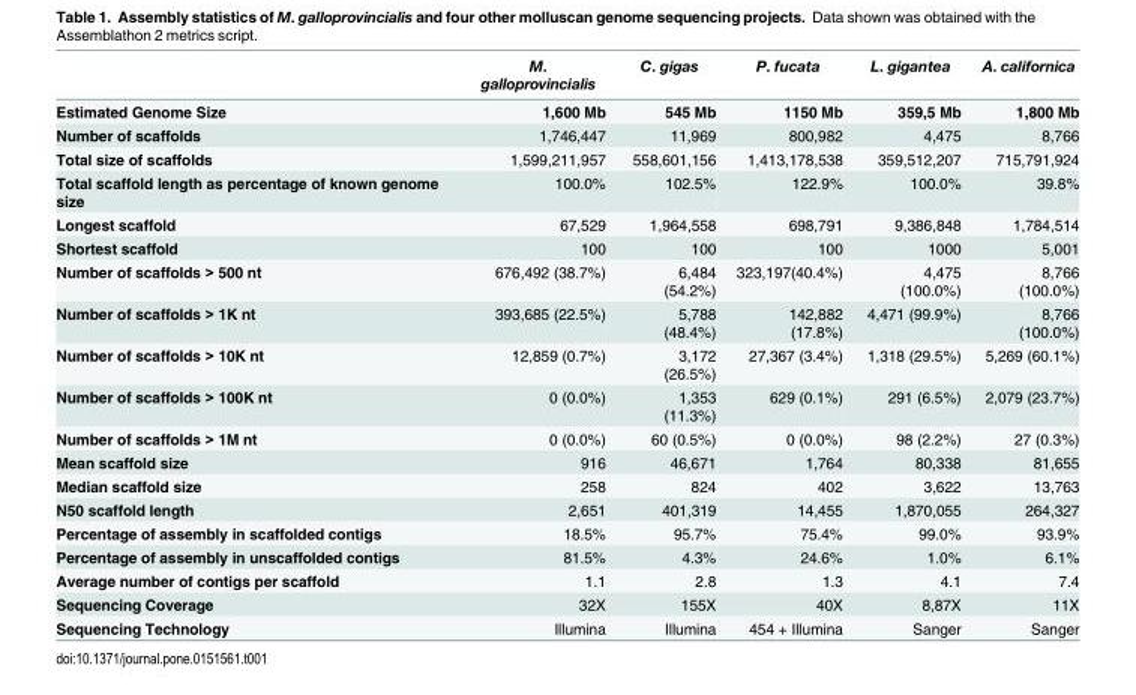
<table><thead><tr><td></td><td>M. galloprovincialis</td><td>C. gigas</td><td>P. fucata</td><td>L. gigantea</td><td>A. californica</td></tr></thead><tbody><tr><td>Estimated Genome Size</td><td>1,600 Mb</td><td>545 Mb</td><td>1150 Mb</td><td>359,5 Mb</td><td>1,800 Mb</td></tr><tr><td>Number of scaffolds</td><td>1,746,447</td><td>11,969</td><td>800,982</td><td>4,475</td><td>8,766</td></tr><tr><td>Total size of scaffolds</td><td>1,599,211,957</td><td>558,601,156</td><td>1,413,178,538</td><td>359,512,207</td><td>715,791,924</td></tr><tr><td>Total scaffold length as percentage of known genome size</td><td>100.0%</td><td>102.5%</td><td>122.9%</td><td>100.0%</td><td>39.8%</td></tr><tr><td>Longest scaffold</td><td>67,529</td><td>1,964,558</td><td>698,791</td><td>9,386,848</td><td>1,784,514</td></tr><tr><td>Shortest scaffold</td><td>100</td><td>100</td><td>100</td><td>1000</td><td>5,001</td></tr><tr><td>Number of scaffolds &gt; 500 nt</td><td>676,492 (38.7%)</td><td>6,484 (54.2%)</td><td>323,197(40.4%)</td><td>4,475 (100.0%)</td><td>8,766 (100.0%)</td></tr><tr><td>Number of scaffolds &gt; 1K nt</td><td>393,685 (22.5%)</td><td>5,788 (48.4%)</td><td>142,882 (17.8%)</td><td>4,471 (99.9%)</td><td>8,766 (100.0%)</td></tr><tr><td>Number of scaffolds &gt; 10K nt</td><td>12,859 (0.7%)</td><td>3,172 (26.5%)</td><td>27,367 (3.4%)</td><td>1,318 (29.5%)</td><td>5,269 (60.1%)</td></tr><tr><td>Number of scaffolds &gt; 100K nt</td><td>0 (0.0%)</td><td>1,353 (11.3%)</td><td>629 (0.1%)</td><td>291 (6.5%)</td><td>2,079 (23.7%)</td></tr><tr><td>Number of scaffolds &gt; 1M nt</td><td>0 (0.0%)</td><td>60 (0.5%)</td><td>0 (0.0%)</td><td>98 (2.2%)</td><td>27 (0.3%)</td></tr><tr><td>Mean scaffold size</td><td>916</td><td>46,671</td><td>1,764</td><td>80,338</td><td>81,655</td></tr><tr><td>Median scaffold size</td><td>258</td><td>824</td><td>402</td><td>3,622</td><td>13,763</td></tr><tr><td>N50 scaffold length</td><td>2,651</td><td>401,319</td><td>14,455</td><td>1,870,055</td><td>264,327</td></tr><tr><td>Percentage of assembly in scaffolded contigs</td><td>18.5%</td><td>95.7%</td><td>75.4%</td><td>99.0%</td><td>93.9%</td></tr><tr><td>Percentage of assembly in unscaffolded contigs</td><td>81.5%</td><td>4.3%</td><td>24.6%</td><td>1.0%</td><td>6.1%</td></tr><tr><td>Average number of contigs per scaffold</td><td>1.1</td><td>2.8</td><td>1.3</td><td>4.1</td><td>7.4</td></tr><tr><td>Sequencing Coverage</td><td>32X</td><td>155X</td><td>40X</td><td>8,87X</td><td>11X</td></tr><tr><td>Sequencing Technology</td><td>Illumina</td><td>Illumina</td><td>454 + Illumina</td><td>Sanger</td><td>Sanger</td></tr></tbody></table>